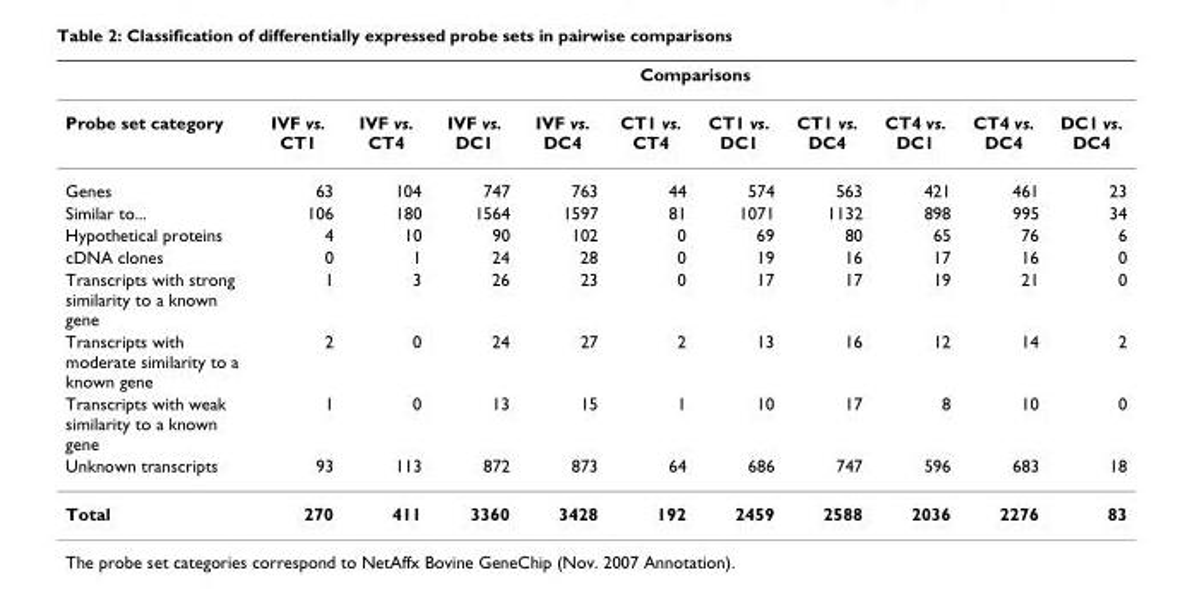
<table><thead><tr><td rowspan="2">Probe set category</td><td colspan="10">Comparisons</td></tr><tr><td>IVF vs. CT1</td><td>IVF vs. CT4</td><td>IVF vs. DC1</td><td>IVF vs. DC4</td><td>CT1 vs. CT4</td><td>CT1 vs. DC1</td><td>CT1 vs. DC4</td><td>CT4 vs. DC1</td><td>CT4 vs. DC4</td><td>DC1 vs. DC4</td></tr></thead><tbody><tr><td>Genes</td><td>63</td><td>104</td><td>747</td><td>763</td><td>44</td><td>574</td><td>563</td><td>421</td><td>461</td><td>23</td></tr><tr><td>Similar to...</td><td>106</td><td>180</td><td>1564</td><td>1597</td><td>81</td><td>1071</td><td>1132</td><td>898</td><td>995</td><td>34</td></tr><tr><td>Hypothetical proteins</td><td>4</td><td>10</td><td>90</td><td>102</td><td>0</td><td>69</td><td>80</td><td>65</td><td>76</td><td>6</td></tr><tr><td>cDNA clones</td><td>0</td><td>1</td><td>24</td><td>28</td><td>0</td><td>19</td><td>16</td><td>17</td><td>16</td><td>0</td></tr><tr><td>Transcripts with strong similarity to a known gene</td><td>1</td><td>3</td><td>26</td><td>23</td><td>0</td><td>17</td><td>17</td><td>19</td><td>21</td><td>0</td></tr><tr><td>Transcripts with moderate similarity to a known gene</td><td>2</td><td>0</td><td>24</td><td>27</td><td>2</td><td>13</td><td>16</td><td>12</td><td>14</td><td>2</td></tr><tr><td>Transcripts with weak similarity to a known gene</td><td>1</td><td>0</td><td>13</td><td>15</td><td>1</td><td>10</td><td>17</td><td>8</td><td>10</td><td>0</td></tr><tr><td>Unknown transcripts</td><td>93</td><td>113</td><td>872</td><td>873</td><td>64</td><td>686</td><td>747</td><td>596</td><td>683</td><td>18</td></tr><tr><td>Total</td><td>270</td><td>411</td><td>3360</td><td>3428</td><td>192</td><td>2459</td><td>2588</td><td>2036</td><td>2276</td><td>83</td></tr></tbody></table>